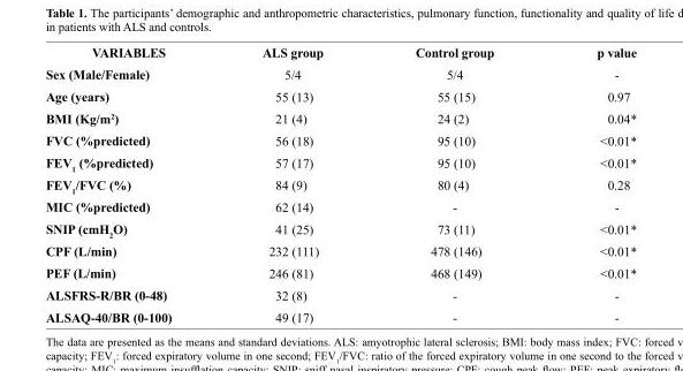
<table><thead><tr><td>VARIABLES</td><td>ALS group</td><td>Control group</td><td>p value</td></tr></thead><tbody><tr><td>Sex (Male/Female)</td><td>5/4</td><td>5/4</td><td>-</td></tr><tr><td>Age (years)</td><td>55 (13)</td><td>55 (15)</td><td>0.97</td></tr><tr><td>BMI (Kg/m<sup>2</sup>)</td><td>21 (4)</td><td>24 (2)</td><td>0.04*</td></tr><tr><td>FVC (%predicted)</td><td>56 (18)</td><td>95 (10)</td><td>&lt;0.01*</td></tr><tr><td>FEV<sub>1</sub> (%predicted)</td><td>57 (17)</td><td>95 (10)</td><td>&lt;0.01*</td></tr><tr><td>FEV<sub>1</sub>/FVC (%)</td><td>84 (9)</td><td>80 (4)</td><td>0.28</td></tr><tr><td>MIC (%predicted)</td><td>62 (14)</td><td>-</td><td>-</td></tr><tr><td>SNIP (cmH<sub>2</sub>O)</td><td>41 (25)</td><td>73 (11)</td><td>&lt;0.01*</td></tr><tr><td>CPF (L/min)</td><td>232 (111)</td><td>478 (146)</td><td>&lt;0.01*</td></tr><tr><td>PEF (L/min)</td><td>246 (81)</td><td>468 (149)</td><td>&lt;0.01*</td></tr><tr><td>ALSFRS-R/BR (0-48)</td><td>32 (8)</td><td>-</td><td>-</td></tr><tr><td>ALSAQ-40/BR (0-100)</td><td>49 (17)</td><td>-</td><td>-</td></tr></tbody></table>